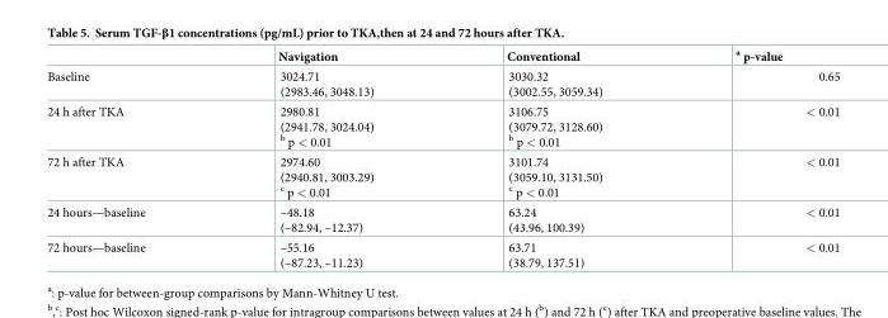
<table><thead><tr><td></td><td>Navigation</td><td>Conventional</td><td><sup>a</sup> p-value</td></tr></thead><tbody><tr><td>Baseline</td><td>3024.71 (2983.46, 3048.13)</td><td>3030.32 (3002.55, 3059.34)</td><td>0.65</td></tr><tr><td>24 h after TKA</td><td>2980.81 (2941.78, 3024.04) <sup>b</sup> p &lt; 0.01</td><td>3106.75 (3079.72, 3128.60) <sup>b</sup> p &lt; 0.01</td><td>&lt; 0.01</td></tr><tr><td>72 h after TKA</td><td>2974.60 (2940.81, 3003.29) <sup>c</sup> p &lt; 0.01</td><td>3101.74 (3059.10, 3131.50) <sup>c</sup> p &lt; 0.01</td><td>&lt; 0.01</td></tr><tr><td>24 hours—baseline</td><td>–48.18 (–82.94, –12.37)</td><td>63.24 (43.96, 100.39)</td><td>&lt; 0.01</td></tr><tr><td>72 hours—baseline</td><td>–55.16 (–87.23, –11.23)</td><td>63.71 (38.79, 137.51)</td><td>&lt; 0.01</td></tr></tbody></table>